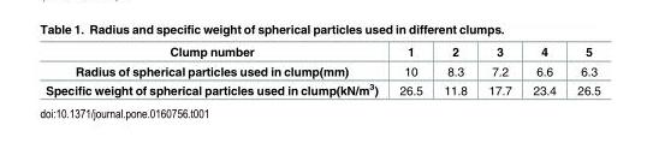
<table><thead><tr><td>Clump number</td><td>1</td><td>2</td><td>3</td><td>4</td><td>5</td></tr></thead><tbody><tr><td>Radius of spherical particles used in clump(mm)</td><td>10</td><td>8.3</td><td>7.2</td><td>6.6</td><td>6.3</td></tr><tr><td>Specific weight of spherical particles used in clump(kN/m<sup>3</sup>)</td><td>26.5</td><td>11.8</td><td>17.7</td><td>23.4</td><td>26.5</td></tr></tbody></table>